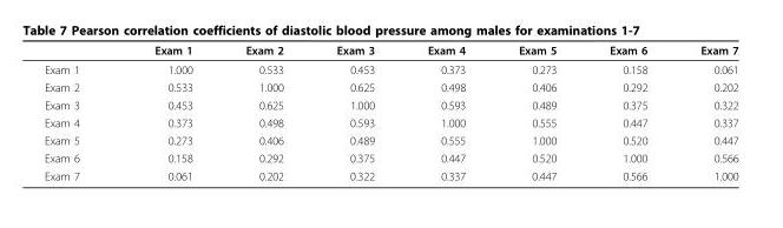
<table><thead><tr><td></td><td>Exam 1</td><td>Exam 2</td><td>Exam 3</td><td>Exam 4</td><td>Exam 5</td><td>Exam 6</td><td>Exam 7</td></tr></thead><tbody><tr><td>Exam 1</td><td>1.000</td><td>0.533</td><td>0.453</td><td>0.373</td><td>0.273</td><td>0.158</td><td>0.061</td></tr><tr><td>Exam 2</td><td>0.533</td><td>1.000</td><td>0.625</td><td>0.498</td><td>0.406</td><td>0.292</td><td>0.202</td></tr><tr><td>Exam 3</td><td>0.453</td><td>0.625</td><td>1.000</td><td>0.593</td><td>0.489</td><td>0.375</td><td>0.322</td></tr><tr><td>Exam 4</td><td>0.373</td><td>0.498</td><td>0.593</td><td>1.000</td><td>0.555</td><td>0.447</td><td>0.337</td></tr><tr><td>Exam 5</td><td>0.273</td><td>0.406</td><td>0.489</td><td>0.555</td><td>1.000</td><td>0.520</td><td>0.447</td></tr><tr><td>Exam 6</td><td>0.158</td><td>0.292</td><td>0.375</td><td>0.447</td><td>0.520</td><td>1.000</td><td>0.566</td></tr><tr><td>Exam 7</td><td>0.061</td><td>0.202</td><td>0.322</td><td>0.337</td><td>0.447</td><td>0.566</td><td>1.000</td></tr></tbody></table>